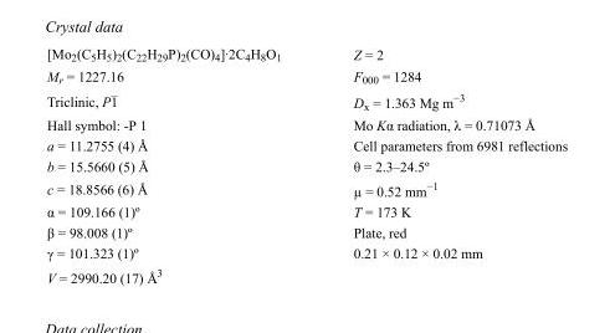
<table><tbody><tr><td>[Mo2(C5H5)2(C22H29P)2(CO)4]·2C4H8O1</td><td>Z = 2</td></tr><tr><td>M<sub>r</sub> = 1227.16</td><td>F000 = 1284</td></tr><tr><td>Triclinic, P1</td><td>D<sub>x</sub> = 1.363 Mg m<sup>−3</sup></td></tr><tr><td>Hall symbol: -P 1</td><td>Mo Kα radiation, λ = 0.71073 Å</td></tr><tr><td>a = 11.2755 (4) Å</td><td>Cell parameters from 6981 reflections</td></tr><tr><td>b = 15.5660 (5) Å</td><td>θ = 2.3–24.5º</td></tr><tr><td>c = 18.8566 (6) Å</td><td>µ = 0.52 mm<sup>−1</sup></td></tr><tr><td>α = 109.166 (1)º</td><td>T = 173 K</td></tr><tr><td>β = 98.008 (1)º</td><td>Plate, red</td></tr><tr><td>γ = 101.323 (1)º</td><td>0.21 × 0.12 × 0.02 mm</td></tr><tr><td>V = 2990.20 (17) Å<sup>3</sup></td><td></td></tr></tbody></table>